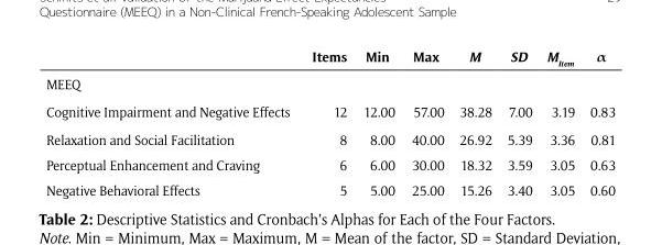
<table><thead><tr><td></td><td>Items</td><td>Min</td><td>Max</td><td>M</td><td>SD</td><td>M<sub>Item</sub></td><td>α</td></tr></thead><tbody><tr><td colspan="8">MEEQ</td></tr><tr><td>Cognitive Impairment and Negative Effects</td><td>12</td><td>12.00</td><td>57.00</td><td>38.28</td><td>7.00</td><td>3.19</td><td>0.83</td></tr><tr><td>Relaxation and Social Facilitation</td><td>8</td><td>8.00</td><td>40.00</td><td>26.92</td><td>5.39</td><td>3.36</td><td>0.81</td></tr><tr><td>Perceptual Enhancement and Craving</td><td>6</td><td>6.00</td><td>30.00</td><td>18.32</td><td>3.59</td><td>3.05</td><td>0.63</td></tr><tr><td>Negative Behavioral Effects</td><td>5</td><td>5.00</td><td>25.00</td><td>15.26</td><td>3.40</td><td>3.05</td><td>0.60</td></tr></tbody></table>